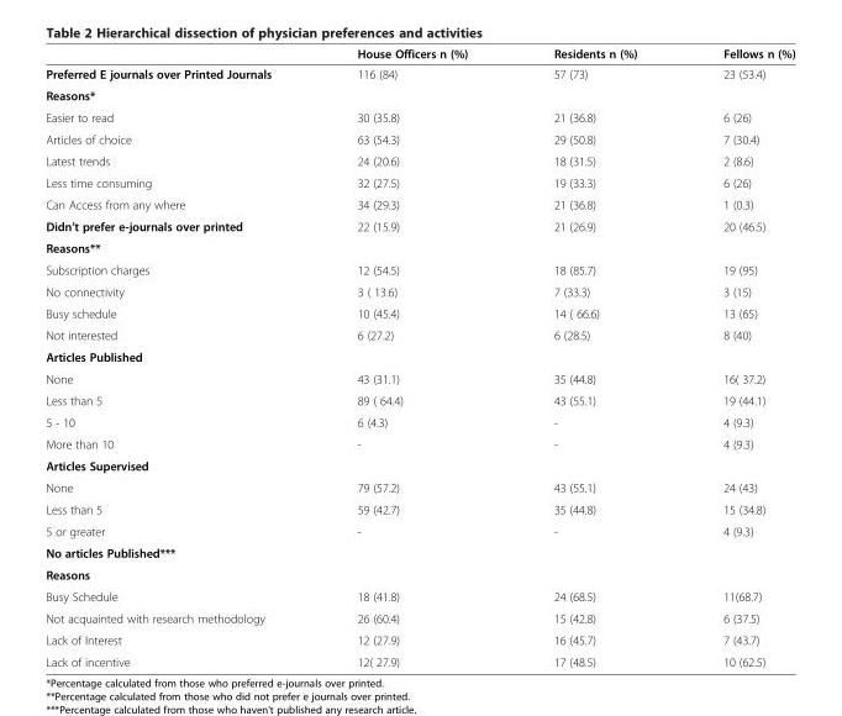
<table><thead><tr><td></td><td>House Officers n (%)</td><td>Residents n (%)</td><td>Fellows n (%)</td></tr></thead><tbody><tr><td>Preferred E journals over Printed Journals</td><td>116 (84)</td><td>57 (73)</td><td>23 (53.4)</td></tr><tr><td colspan="4">Reasons*</td></tr><tr><td>Easier to read</td><td>30 (35.8)</td><td>21 (36.8)</td><td>6 (26)</td></tr><tr><td>Articles of choice</td><td>63 (54.3)</td><td>29 (50.8)</td><td>7 (30.4)</td></tr><tr><td>Latest trends</td><td>24 (20.6)</td><td>18 (31.5)</td><td>2 (8.6)</td></tr><tr><td>Less time consuming</td><td>32 (27.5)</td><td>19 (33.3)</td><td>6 (26)</td></tr><tr><td>Can Access from any where</td><td>34 (29.3)</td><td>21 (36.8)</td><td>1 (0.3)</td></tr><tr><td>Didn’t prefer e-journals over printed</td><td>22 (15.9)</td><td>21 (26.9)</td><td>20 (46.5)</td></tr><tr><td colspan="4">Reasons**</td></tr><tr><td>Subscription charges</td><td>12 (54.5)</td><td>18 (85.7)</td><td>19 (95)</td></tr><tr><td>No connectivity</td><td>3 ( 13.6)</td><td>7 (33.3)</td><td>3 (15)</td></tr><tr><td>Busy schedule</td><td>10 (45.4)</td><td>14 ( 66.6)</td><td>13 (65)</td></tr><tr><td>Not interested</td><td>6 (27.2)</td><td>6 (28.5)</td><td>8 (40)</td></tr><tr><td colspan="4">Articles Published</td></tr><tr><td>None</td><td>43 (31.1)</td><td>35 (44.8)</td><td>16( 37.2)</td></tr><tr><td>Less than 5</td><td>89 ( 64.4)</td><td>43 (55.1)</td><td>19 (44.1)</td></tr><tr><td>5 - 10</td><td>6 (4.3)</td><td>-</td><td>4 (9.3)</td></tr><tr><td>More than 10</td><td>-</td><td>-</td><td>4 (9.3)</td></tr><tr><td colspan="4">Articles Supervised</td></tr><tr><td>None</td><td>79 (57.2)</td><td>43 (55.1)</td><td>24 (43)</td></tr><tr><td>Less than 5</td><td>59 (42.7)</td><td>35 (44.8)</td><td>15 (34.8)</td></tr><tr><td>5 or greater</td><td>-</td><td>-</td><td>4 (9.3)</td></tr><tr><td colspan="4">No articles Published***</td></tr><tr><td colspan="4">Reasons</td></tr><tr><td>Busy Schedule</td><td>18 (41.8)</td><td>24 (68.5)</td><td>11(68.7)</td></tr><tr><td>Not acquainted with research methodology</td><td>26 (60.4)</td><td>15 (42.8)</td><td>6 (37.5)</td></tr><tr><td>Lack of Interest</td><td>12 (27.9)</td><td>16 (45.7)</td><td>7 (43.7)</td></tr><tr><td>Lack of incentive</td><td>12( 27.9)</td><td>17 (48.5)</td><td>10 (62.5)</td></tr></tbody></table>